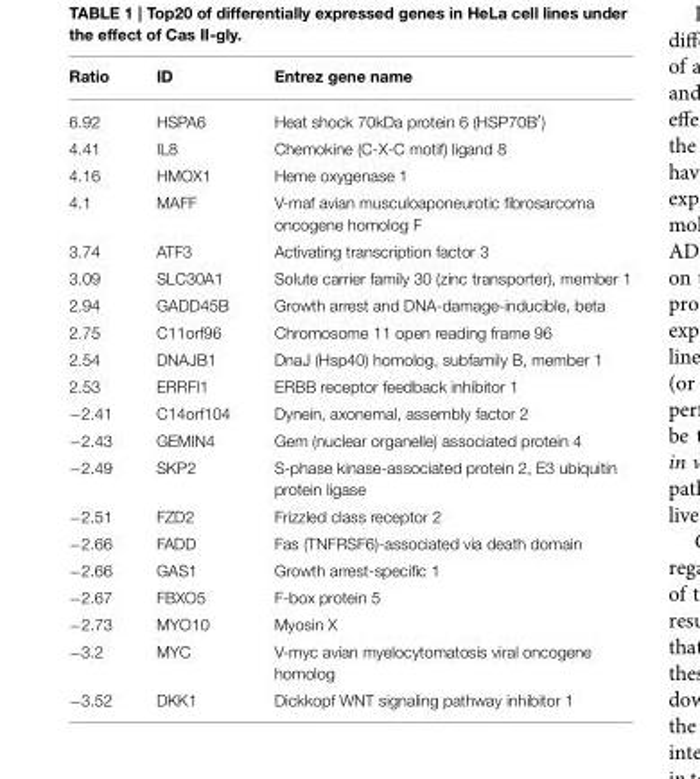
<table><thead><tr><td>Ratio</td><td>ID</td><td>Entrez gene name</td></tr></thead><tbody><tr><td>6.92</td><td>HSPA6</td><td>Heat shock 70kDa protein 6 (HSP70B′)</td></tr><tr><td>4.41</td><td>IL8</td><td>Chemokine (C-X-C motif) ligand 8</td></tr><tr><td>4.16</td><td>HMOX1</td><td>Heme oxygenase 1</td></tr><tr><td>4.1</td><td>MAFF</td><td>V-maf avian musculoaponeurotic fibrosarcoma oncogene homolog F</td></tr><tr><td>3.74</td><td>ATF3</td><td>Activating transcription factor 3</td></tr><tr><td>3.09</td><td>SLC30A1</td><td>Solute carrier family 30 (zinc transporter), member 1</td></tr><tr><td>2.94</td><td>GADD45B</td><td>Growth arrest and DNA-damage-inducible, beta</td></tr><tr><td>2.75</td><td>C11orf96</td><td>Chromosome 11 open reading frame 96</td></tr><tr><td>2.54</td><td>DNAJB1</td><td>DnaJ (Hsp40) homolog, subfamily B, member 1</td></tr><tr><td>2.53</td><td>ERRFI1</td><td>ERBB receptor feedback inhibitor 1</td></tr><tr><td>−2.41</td><td>C14orf104</td><td>Dynein, axonemal, assembly factor 2</td></tr><tr><td>−2.43</td><td>GEMIN4</td><td>Gem (nuclear organelle) associated protein 4</td></tr><tr><td>−2.49</td><td>SKP2</td><td>S-phase kinase-associated protein 2, E3 ubiquitin protein ligase</td></tr><tr><td>−2.51</td><td>FZD2</td><td>Frizzled class receptor 2</td></tr><tr><td>−2.66</td><td>FADD</td><td>Fas (TNFRSF6)-associated via death domain</td></tr><tr><td>−2.66</td><td>GAS1</td><td>Growth arrest-specific 1</td></tr><tr><td>−2.67</td><td>FBXO5</td><td>F-box protein 5</td></tr><tr><td>−2.73</td><td>MYO10</td><td>Myosin X</td></tr><tr><td>−3.2</td><td>MYC</td><td>V-myc avian myelocytomatosis viral oncogene homolog</td></tr><tr><td>−3.52</td><td>DKK1</td><td>Dickkopf WNT signaling pathway inhibitor 1</td></tr></tbody></table>